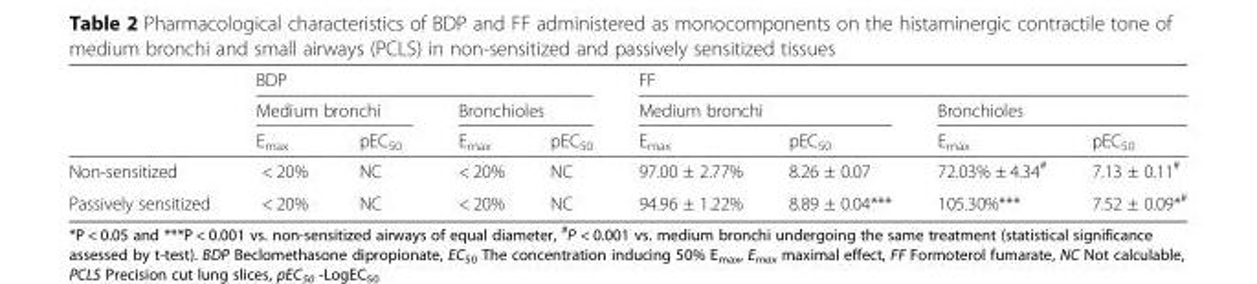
<table><thead><tr><td rowspan="3"></td><td colspan="4">BDP</td><td colspan="4">FF</td></tr><tr><td colspan="2">Medium bronchi</td><td colspan="2">Bronchioles</td><td colspan="2">Medium bronchi</td><td colspan="2">Bronchioles</td></tr><tr><td>E<sub>max</sub></td><td>pEC<sub>50</sub></td><td>E<sub>max</sub></td><td>pEC<sub>50</sub></td><td>E<sub>max</sub></td><td>pEC<sub>50</sub></td><td>E<sub>max</sub></td><td>pEC<sub>50</sub></td></tr></thead><tbody><tr><td>Non-sensitized</td><td>&lt; 20%</td><td>NC</td><td>&lt; 20%</td><td>NC</td><td>97.00 ± 2.77%</td><td>8.26 ± 0.07</td><td>72.03% ± 4.34<sup>#</sup></td><td>7.13 ± 0.11<sup>#</sup></td></tr><tr><td>Passively sensitized</td><td>&lt; 20%</td><td>NC</td><td>&lt; 20%</td><td>NC</td><td>94.96 ± 1.22%</td><td>8.89 ± 0.04***</td><td>105.30%***</td><td>7.52 ± 0.09*<sup>#</sup></td></tr></tbody></table>